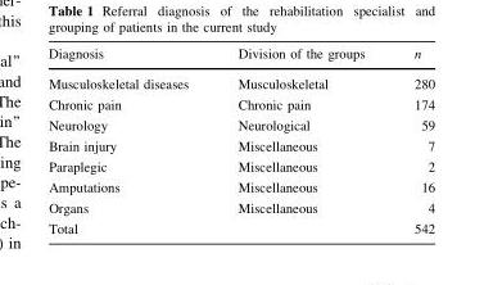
<table><thead><tr><td>Diagnosis</td><td>Division of the groups</td><td>n</td></tr></thead><tbody><tr><td>Musculoskeletal diseases</td><td>Musculoskeletal</td><td>280</td></tr><tr><td>Chronic pain</td><td>Chronic pain</td><td>174</td></tr><tr><td>Neurology</td><td>Neurological</td><td>59</td></tr><tr><td>Brain injury</td><td>Miscellaneous</td><td>7</td></tr><tr><td>Paraplegic</td><td>Miscellaneous</td><td>2</td></tr><tr><td>Amputations</td><td>Miscellaneous</td><td>16</td></tr><tr><td>Organs</td><td>Miscellaneous</td><td>4</td></tr><tr><td colspan="2">Total</td><td>542</td></tr></tbody></table>